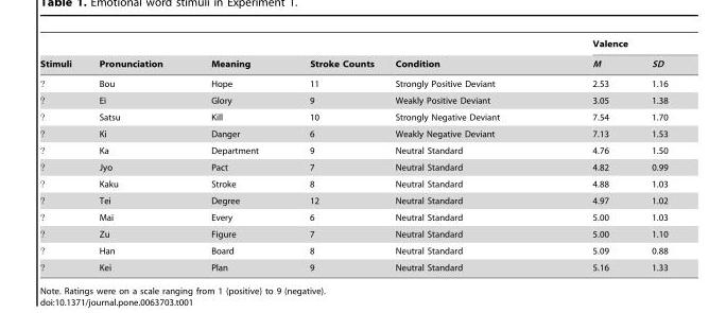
<table><thead><tr><td rowspan="2">Stimuli</td><td rowspan="2">Pronunciation</td><td rowspan="2">Meaning</td><td rowspan="2">Stroke Counts</td><td rowspan="2">Condition</td><td colspan="2">Valence</td></tr><tr><td>M</td><td>SD</td></tr></thead><tbody><tr><td>?</td><td>Bou</td><td>Hope</td><td>11</td><td>Strongly Positive Deviant</td><td>2.53</td><td>1.16</td></tr><tr><td>?</td><td>Ei</td><td>Glory</td><td>9</td><td>Weakly Positive Deviant</td><td>3.05</td><td>1.38</td></tr><tr><td>?</td><td>Satsu</td><td>Kill</td><td>10</td><td>Strongly Negative Deviant</td><td>7.54</td><td>1.70</td></tr><tr><td>?</td><td>Ki</td><td>Danger</td><td>6</td><td>Weakly Negative Deviant</td><td>7.13</td><td>1.53</td></tr><tr><td>?</td><td>Ka</td><td>Department</td><td>9</td><td>Neutral Standard</td><td>4.76</td><td>1.50</td></tr><tr><td>?</td><td>Jyo</td><td>Pact</td><td>7</td><td>Neutral Standard</td><td>4.82</td><td>0.99</td></tr><tr><td>?</td><td>Kaku</td><td>Stroke</td><td>8</td><td>Neutral Standard</td><td>4.88</td><td>1.03</td></tr><tr><td>?</td><td>Tei</td><td>Degree</td><td>12</td><td>Neutral Standard</td><td>4.97</td><td>1.02</td></tr><tr><td>?</td><td>Mai</td><td>Every</td><td>6</td><td>Neutral Standard</td><td>5.00</td><td>1.03</td></tr><tr><td>?</td><td>Zu</td><td>Figure</td><td>7</td><td>Neutral Standard</td><td>5.00</td><td>1.10</td></tr><tr><td>?</td><td>Han</td><td>Board</td><td>8</td><td>Neutral Standard</td><td>5.09</td><td>0.88</td></tr><tr><td>?</td><td>Kei</td><td>Plan</td><td>9</td><td>Neutral Standard</td><td>5.16</td><td>1.33</td></tr></tbody></table>